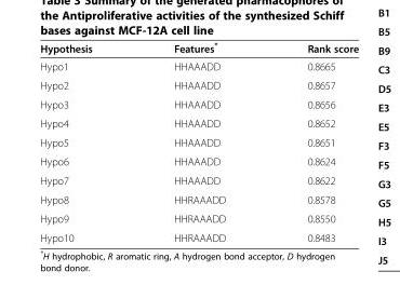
<table><thead><tr><td>Hypothesis</td><td>Features*</td><td>Rank score</td></tr></thead><tbody><tr><td>Hypo1</td><td>HHAAADD</td><td>0.8665</td></tr><tr><td>Hypo2</td><td>HHAAADD</td><td>0.8657</td></tr><tr><td>Hypo3</td><td>HHAAADD</td><td>0.8656</td></tr><tr><td>Hypo4</td><td>HHAAADD</td><td>0.8652</td></tr><tr><td>Hypo5</td><td>HHAAADD</td><td>0.8651</td></tr><tr><td>Hypo6</td><td>HHAAADD</td><td>0.8624</td></tr><tr><td>Hypo7</td><td>HHAAADD</td><td>0.8622</td></tr><tr><td>Hypo8</td><td>HHRAAADD</td><td>0.8578</td></tr><tr><td>Hypo9</td><td>HHRAAADD</td><td>0.8550</td></tr><tr><td>Hypo10</td><td>HHRAAADD</td><td>0.8483</td></tr></tbody></table>